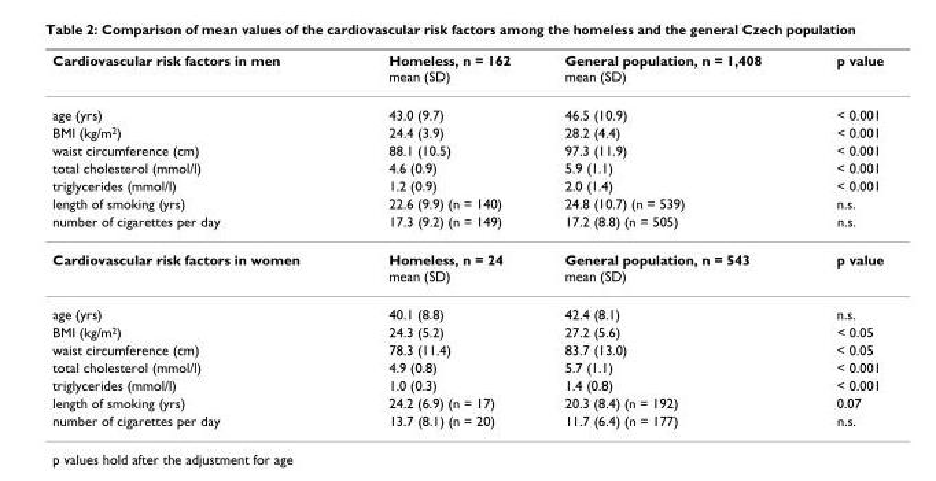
<table><thead><tr><td>Cardiovascular risk factors in men</td><td>Homeless, n = 162 mean (SD)</td><td>General population, n = 1,408 mean (SD)</td><td>p value</td></tr></thead><tbody><tr><td>age (yrs)</td><td>43.0 (9.7)</td><td>46.5 (10.9)</td><td>&lt; 0.001</td></tr><tr><td>BMI (kg/m<sup>2</sup>)</td><td>24.4 (3.9)</td><td>28.2 (4.4)</td><td>&lt; 0.001</td></tr><tr><td>waist circumference (cm)</td><td>88.1 (10.5)</td><td>97.3 (11.9)</td><td>&lt; 0.001</td></tr><tr><td>total cholesterol (mmol/l)</td><td>4.6 (0.9)</td><td>5.9 (1.1)</td><td>&lt; 0.001</td></tr><tr><td>triglycerides (mmol/l)</td><td>1.2 (0.9)</td><td>2.0 (1.4)</td><td>&lt; 0.001</td></tr><tr><td>length of smoking (yrs)</td><td>22.6 (9.9) (n = 140)</td><td>24.8 (10.7) (n = 539)</td><td>n.s.</td></tr><tr><td>number of cigarettes per day</td><td>17.3 (9.2) (n = 149)</td><td>17.2 (8.8) (n = 505)</td><td>n.s.</td></tr><tr><td>Cardiovascular risk factors in women</td><td>Homeless, n = 24 mean (SD)</td><td>General population, n = 543 mean (SD)</td><td>p value</td></tr><tr><td>age (yrs)</td><td>40.1 (8.8)</td><td>42.4 (8.1)</td><td>n.s.</td></tr><tr><td>BMI (kg/m<sup>2</sup>)</td><td>24.3 (5.2)</td><td>27.2 (5.6)</td><td>&lt; 0.05</td></tr><tr><td>waist circumference (cm)</td><td>78.3 (11.4)</td><td>83.7 (13.0)</td><td>&lt; 0.05</td></tr><tr><td>total cholesterol (mmol/l)</td><td>4.9 (0.8)</td><td>5.7 (1.1)</td><td>&lt; 0.001</td></tr><tr><td>triglycerides (mmol/l)</td><td>1.0 (0.3)</td><td>1.4 (0.8)</td><td>&lt; 0.001</td></tr><tr><td>length of smoking (yrs)</td><td>24.2 (6.9) (n = 17)</td><td>20.3 (8.4) (n = 192)</td><td>0.07</td></tr><tr><td>number of cigarettes per day</td><td>13.7 (8.1) (n = 20)</td><td>11.7 (6.4) (n = 177)</td><td>n.s.</td></tr></tbody></table>